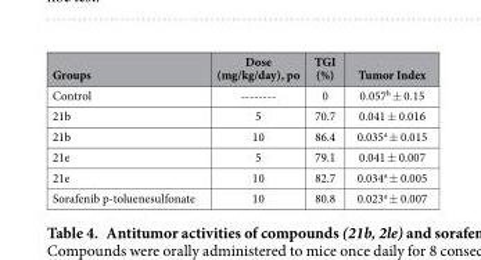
<table><thead><tr><td>Groups</td><td>Dose (mg/kg/day), po</td><td>TGI (%)</td><td>Tumor Index</td></tr></thead><tbody><tr><td>Control</td><td>--------</td><td>0</td><td>0.057<sup>b</sup> ± 0.15</td></tr><tr><td>21b</td><td>5</td><td>70.7</td><td>0.041 ± 0.016</td></tr><tr><td>21b</td><td>10</td><td>86.4</td><td>0.035<sup>a</sup> ± 0.015</td></tr><tr><td>21e</td><td>5</td><td>79.1</td><td>0.041 ± 0.007</td></tr><tr><td>21e</td><td>10</td><td>82.7</td><td>0.034<sup>a</sup> ± 0.005</td></tr><tr><td>Sorafenib p-toluenesulfonate</td><td>10</td><td>80.8</td><td>0.023<sup>a</sup> ± 0.007</td></tr></tbody></table>